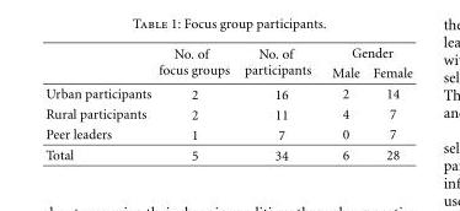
<table><thead><tr><td rowspan="2"></td><td rowspan="2">No. of focus groups</td><td rowspan="2">No. of participants</td><td colspan="2">Gender</td></tr><tr><td>Male</td><td>Female</td></tr></thead><tbody><tr><td>Urban participants</td><td>2</td><td>16</td><td>2</td><td>14</td></tr><tr><td>Rural participants</td><td>2</td><td>11</td><td>4</td><td>7</td></tr><tr><td>Peer leaders</td><td>1</td><td>7</td><td>0</td><td>7</td></tr><tr><td>Total</td><td>5</td><td>34</td><td>6</td><td>28</td></tr></tbody></table>